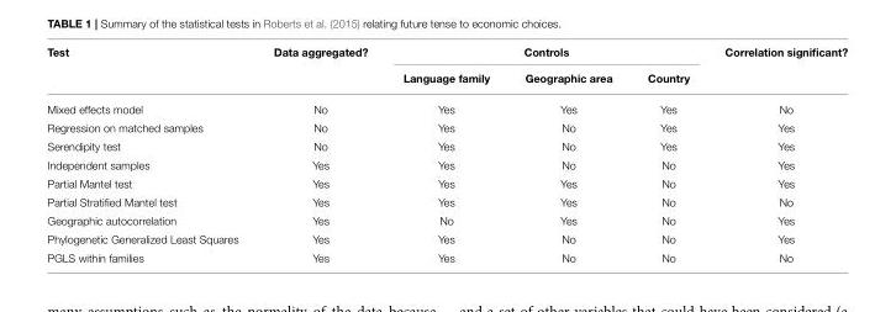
<table><thead><tr><td rowspan="2">Test</td><td rowspan="2">Data aggregated?</td><td colspan="3">Controls</td><td rowspan="2">Correlation significant?</td></tr><tr><td>Language family</td><td>Geographic area</td><td>Country</td></tr></thead><tbody><tr><td>Mixed effects model</td><td>No</td><td>Yes</td><td>Yes</td><td>Yes</td><td>No</td></tr><tr><td>Regression on matched samples</td><td>No</td><td>Yes</td><td>No</td><td>Yes</td><td>Yes</td></tr><tr><td>Serendipity test</td><td>No</td><td>Yes</td><td>No</td><td>Yes</td><td>Yes</td></tr><tr><td>Independent samples</td><td>Yes</td><td>Yes</td><td>No</td><td>No</td><td>Yes</td></tr><tr><td>Partial Mantel test</td><td>Yes</td><td>Yes</td><td>Yes</td><td>No</td><td>Yes</td></tr><tr><td>Partial Stratified Mantel test</td><td>Yes</td><td>Yes</td><td>Yes</td><td>No</td><td>No</td></tr><tr><td>Geographic autocorrelation</td><td>Yes</td><td>No</td><td>Yes</td><td>No</td><td>Yes</td></tr><tr><td>Phylogenetic Generalized Least Squares</td><td>Yes</td><td>Yes</td><td>No</td><td>No</td><td>Yes</td></tr><tr><td>PGLS within families</td><td>Yes</td><td>Yes</td><td>No</td><td>No</td><td>No</td></tr></tbody></table>